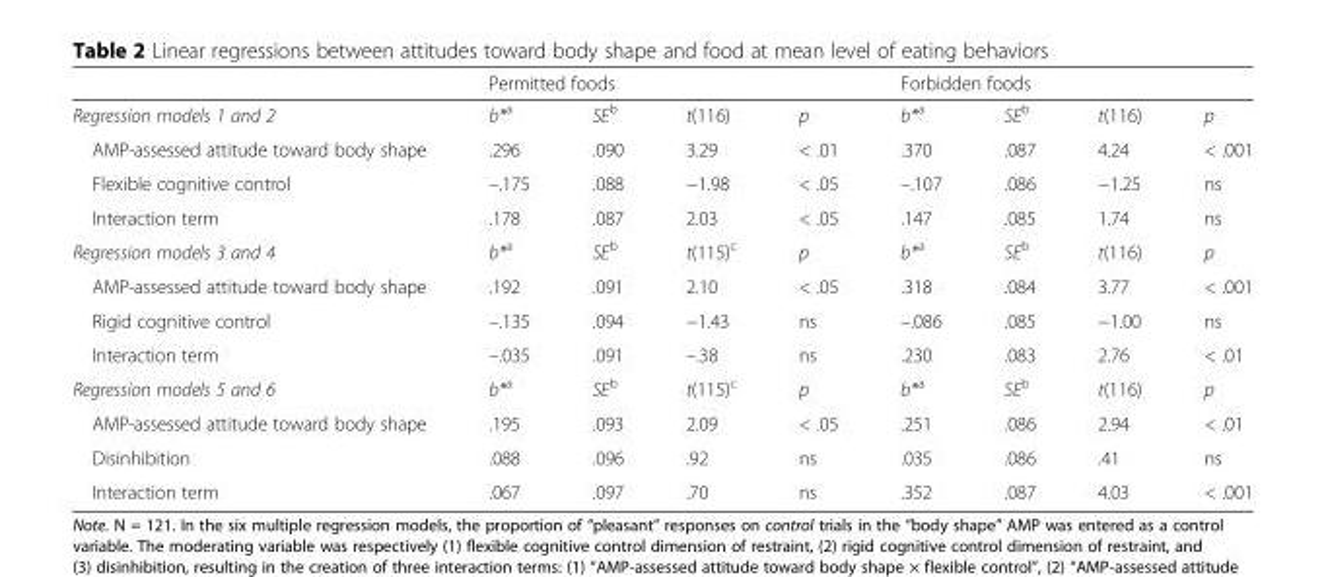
<table><thead><tr><td rowspan="2">Regression models 1 and 2</td><td colspan="4">Permitted foods</td><td colspan="4">Forbidden foods</td></tr><tr><td>b*<sup>a</sup></td><td>SE<sup>b</sup></td><td>t(116)</td><td>p</td><td>b*<sup>a</sup></td><td>SE<sup>b</sup></td><td>t(116)</td><td>p</td></tr></thead><tbody><tr><td>AMP-assessed attitude toward body shape</td><td>.296</td><td>.090</td><td>3.29</td><td>&lt; .01</td><td>.370</td><td>.087</td><td>4.24</td><td>&lt; .001</td></tr><tr><td>Flexible cognitive control</td><td>–.175</td><td>.088</td><td>−1.98</td><td>&lt; .05</td><td>–.107</td><td>.086</td><td>−1.25</td><td>ns</td></tr><tr><td>Interaction term</td><td>.178</td><td>.087</td><td>2.03</td><td>&lt; .05</td><td>.147</td><td>.085</td><td>1.74</td><td>ns</td></tr><tr><td>Regression models 3 and 4</td><td>b*<sup>a</sup></td><td>SE<sup>b</sup></td><td>t(115)<sup>c</sup></td><td>p</td><td>b*<sup>a</sup></td><td>SE<sup>b</sup></td><td>t(116)</td><td>p</td></tr><tr><td>AMP-assessed attitude toward body shape</td><td>.192</td><td>.091</td><td>2.10</td><td>&lt; .05</td><td>.318</td><td>.084</td><td>3.77</td><td>&lt; .001</td></tr><tr><td>Rigid cognitive control</td><td>–.135</td><td>.094</td><td>−1.43</td><td>ns</td><td>–.086</td><td>.085</td><td>−1.00</td><td>ns</td></tr><tr><td>Interaction term</td><td>–.035</td><td>.091</td><td>–.38</td><td>ns</td><td>.230</td><td>.083</td><td>2.76</td><td>&lt; .01</td></tr><tr><td>Regression models 5 and 6</td><td>b*<sup>a</sup></td><td>SE<sup>b</sup></td><td>t(115)<sup>c</sup></td><td>p</td><td>b*<sup>a</sup></td><td>SE<sup>b</sup></td><td>t(116)</td><td>p</td></tr><tr><td>AMP-assessed attitude toward body shape</td><td>.195</td><td>.093</td><td>2.09</td><td>&lt; .05</td><td>.251</td><td>.086</td><td>2.94</td><td>&lt; .01</td></tr><tr><td>Disinhibition</td><td>.088</td><td>.096</td><td>.92</td><td>ns</td><td>.035</td><td>.086</td><td>.41</td><td>ns</td></tr><tr><td>Interaction term</td><td>.067</td><td>.097</td><td>.70</td><td>ns</td><td>.352</td><td>.087</td><td>4.03</td><td>&lt; .001</td></tr></tbody></table>